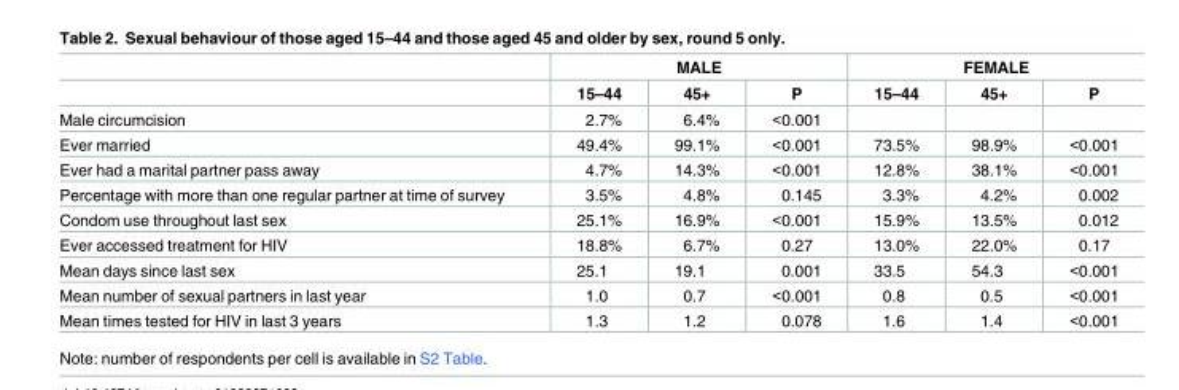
<table><thead><tr><td rowspan="2"></td><td colspan="3">MALE</td><td colspan="3">FEMALE</td></tr><tr><td>15–44</td><td>45+</td><td>P</td><td>15–44</td><td>45+</td><td>P</td></tr></thead><tbody><tr><td>Male circumcision</td><td>2.7%</td><td>6.4%</td><td>&lt;0.001</td><td></td><td></td><td></td></tr><tr><td>Ever married</td><td>49.4%</td><td>99.1%</td><td>&lt;0.001</td><td>73.5%</td><td>98.9%</td><td>&lt;0.001</td></tr><tr><td>Ever had a marital partner pass away</td><td>4.7%</td><td>14.3%</td><td>&lt;0.001</td><td>12.8%</td><td>38.1%</td><td>&lt;0.001</td></tr><tr><td>Percentage with more than one regular partner at time of survey</td><td>3.5%</td><td>4.8%</td><td>0.145</td><td>3.3%</td><td>4.2%</td><td>0.002</td></tr><tr><td>Condom use throughout last sex</td><td>25.1%</td><td>16.9%</td><td>&lt;0.001</td><td>15.9%</td><td>13.5%</td><td>0.012</td></tr><tr><td>Ever accessed treatment for HIV</td><td>18.8%</td><td>6.7%</td><td>0.27</td><td>13.0%</td><td>22.0%</td><td>0.17</td></tr><tr><td>Mean days since last sex</td><td>25.1</td><td>19.1</td><td>0.001</td><td>33.5</td><td>54.3</td><td>&lt;0.001</td></tr><tr><td>Mean number of sexual partners in last year</td><td>1.0</td><td>0.7</td><td>&lt;0.001</td><td>0.8</td><td>0.5</td><td>&lt;0.001</td></tr><tr><td>Mean times tested for HIV in last 3 years</td><td>1.3</td><td>1.2</td><td>0.078</td><td>1.6</td><td>1.4</td><td>&lt;0.001</td></tr></tbody></table>